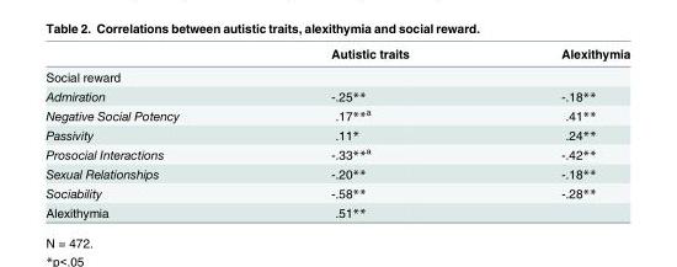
<table><thead><tr><td></td><td>Autistic traits</td><td>Alexithymia</td></tr></thead><tbody><tr><td colspan="3">Social reward</td></tr><tr><td>Admiration</td><td>-.25**</td><td>-.18**</td></tr><tr><td>Negative Social Potency</td><td>.17**<sup>a</sup></td><td>.41**</td></tr><tr><td>Passivity</td><td>.11*</td><td>.24**</td></tr><tr><td>Prosocial Interactions</td><td>-.33**<sup>a</sup></td><td>-.42**</td></tr><tr><td>Sexual Relationships</td><td>-.20**</td><td>-.18**</td></tr><tr><td>Sociability</td><td>-.58**</td><td>-.28**</td></tr><tr><td>Alexithymia</td><td>.51**</td><td></td></tr></tbody></table>